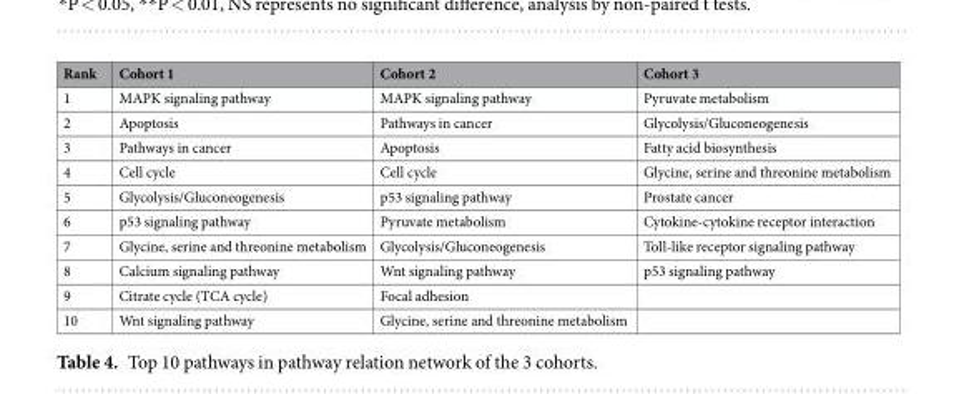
<table><thead><tr><td>Rank</td><td>Cohort 1</td><td>Cohort 2</td><td>Cohort 3</td></tr></thead><tbody><tr><td>1</td><td>MAPK signaling pathway</td><td>MAPK signaling pathway</td><td>Pyruvate metabolism</td></tr><tr><td>2</td><td>Apoptosis</td><td>Pathways in cancer</td><td>Glycolysis/Gluconeogenesis</td></tr><tr><td>3</td><td>Pathways in cancer</td><td>Apoptosis</td><td>Fatty acid biosynthesis</td></tr><tr><td>4</td><td>Cell cycle</td><td>Cell cycle</td><td>Glycine, serine and threonine metabolism</td></tr><tr><td>5</td><td>Glycolysis/Gluconeogenesis</td><td>p53 signaling pathway</td><td>Prostate cancer</td></tr><tr><td>6</td><td>p53 signaling pathway</td><td>Pyruvate metabolism</td><td>Cytokine-cytokine receptor interaction</td></tr><tr><td>7</td><td>Glycine, serine and threonine metabolism</td><td>Glycolysis/Gluconeogenesis</td><td>Toll-like receptor signaling pathway</td></tr><tr><td>8</td><td>Calcium signaling pathway</td><td>Wnt signaling pathway</td><td>p53 signaling pathway</td></tr><tr><td>9</td><td>Citrate cycle (TCA cycle)</td><td>Focal adhesion</td><td></td></tr><tr><td>10</td><td>Wnt signaling pathway</td><td>Glycine, serine and threonine metabolism</td><td></td></tr></tbody></table>